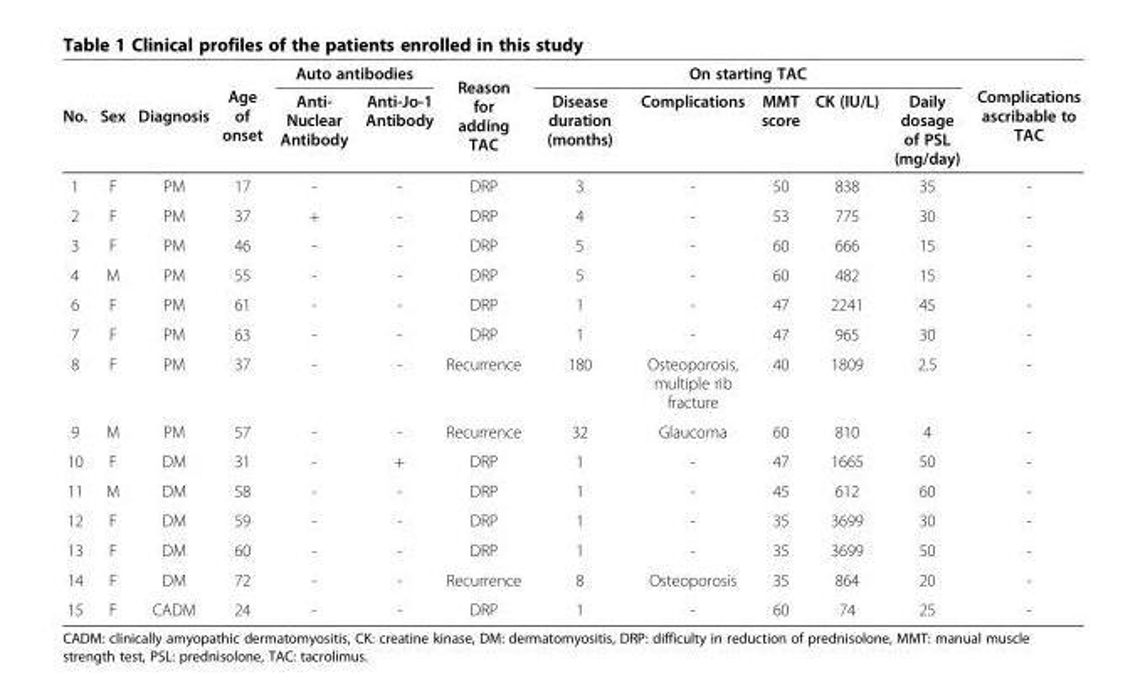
<table><thead><tr><td rowspan="2">No.</td><td rowspan="2">Sex</td><td rowspan="2">Diagnosis</td><td rowspan="2">Age of onset</td><td colspan="2">Auto antibodies</td><td rowspan="2">Reason for adding TAC</td><td colspan="5">On starting TAC</td><td rowspan="2">Complications ascribable to TAC</td></tr><tr><td>Anti- Nuclear Antibody</td><td>Anti-Jo-1 Antibody</td><td>Disease duration (months)</td><td>Complications</td><td>MMT score</td><td>CK (IU/L)</td><td>Daily dosage of PSL (mg/day)</td></tr></thead><tbody><tr><td>1</td><td>F</td><td>PM</td><td>17</td><td>-</td><td>-</td><td>DRP</td><td>3</td><td>-</td><td>50</td><td>838</td><td>35</td><td>-</td></tr><tr><td>2</td><td>F</td><td>PM</td><td>37</td><td>+</td><td>-</td><td>DRP</td><td>4</td><td>-</td><td>53</td><td>775</td><td>30</td><td>-</td></tr><tr><td>3</td><td>F</td><td>PM</td><td>46</td><td>-</td><td>-</td><td>DRP</td><td>5</td><td>-</td><td>60</td><td>666</td><td>15</td><td>-</td></tr><tr><td>4</td><td>M</td><td>PM</td><td>55</td><td>-</td><td>-</td><td>DRP</td><td>5</td><td>-</td><td>60</td><td>482</td><td>15</td><td>-</td></tr><tr><td>6</td><td>F</td><td>PM</td><td>61</td><td>-</td><td>-</td><td>DRP</td><td>1</td><td>-</td><td>47</td><td>2241</td><td>45</td><td>-</td></tr><tr><td>7</td><td>F</td><td>PM</td><td>63</td><td>-</td><td>-</td><td>DRP</td><td>1</td><td>-</td><td>47</td><td>965</td><td>30</td><td>-</td></tr><tr><td>8</td><td>F</td><td>PM</td><td>37</td><td>-</td><td>-</td><td>Recurrence</td><td>180</td><td>Osteoporosis, multiple rib fracture</td><td>40</td><td>1809</td><td>2.5</td><td>-</td></tr><tr><td>9</td><td>M</td><td>PM</td><td>57</td><td>-</td><td>-</td><td>Recurrence</td><td>32</td><td>Glaucoma</td><td>60</td><td>810</td><td>4</td><td>-</td></tr><tr><td>10</td><td>F</td><td>DM</td><td>31</td><td>-</td><td>+</td><td>DRP</td><td>1</td><td>-</td><td>47</td><td>1665</td><td>50</td><td>-</td></tr><tr><td>11</td><td>M</td><td>DM</td><td>58</td><td>-</td><td>-</td><td>DRP</td><td>1</td><td>-</td><td>45</td><td>612</td><td>60</td><td>-</td></tr><tr><td>12</td><td>F</td><td>DM</td><td>59</td><td>-</td><td>-</td><td>DRP</td><td>1</td><td>-</td><td>35</td><td>3699</td><td>30</td><td>-</td></tr><tr><td>13</td><td>F</td><td>DM</td><td>60</td><td>-</td><td>-</td><td>DRP</td><td>1</td><td>-</td><td>35</td><td>3699</td><td>50</td><td>-</td></tr><tr><td>14</td><td>F</td><td>DM</td><td>72</td><td>-</td><td>-</td><td>Recurrence</td><td>8</td><td>Osteoporosis</td><td>35</td><td>864</td><td>20</td><td>-</td></tr><tr><td>15</td><td>F</td><td>CADM</td><td>24</td><td>-</td><td>-</td><td>DRP</td><td>1</td><td>-</td><td>60</td><td>74</td><td>25</td><td>-</td></tr></tbody></table>